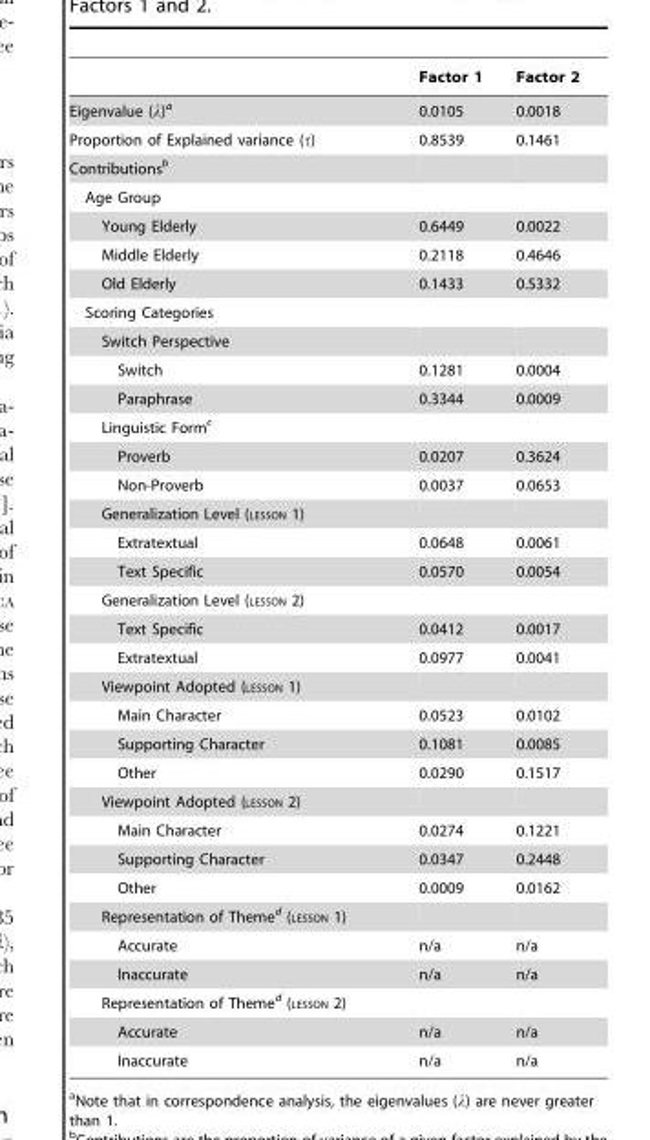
<table><thead><tr><td></td><td>Factor 1</td><td>Factor 2</td></tr></thead><tbody><tr><td>Eigenvalue (l)a</td><td>0.0105</td><td>0.0018</td></tr><tr><td>Proportion of Explained variance (t)</td><td>0.8539</td><td>0.1461</td></tr><tr><td colspan="3">Contributions<sup>b</sup></td></tr><tr><td colspan="3">Age Group</td></tr><tr><td>Young Elderly</td><td>0.6449</td><td>0.0022</td></tr><tr><td>Middle Elderly</td><td>0.2118</td><td>0.4646</td></tr><tr><td>Old Elderly</td><td>0.1433</td><td>0.5332</td></tr><tr><td colspan="3">Scoring Categories</td></tr><tr><td colspan="3">Switch Perspective</td></tr><tr><td>Switch</td><td>0.1281</td><td>0.0004</td></tr><tr><td>Paraphrase</td><td>0.3344</td><td>0.0009</td></tr><tr><td colspan="3">Linguistic Form<sup>c</sup></td></tr><tr><td>Proverb</td><td>0.0207</td><td>0.3624</td></tr><tr><td>Non-Proverb</td><td>0.0037</td><td>0.0653</td></tr><tr><td colspan="3">Generalization Level (LESSON 1)</td></tr><tr><td>Extratextual</td><td>0.0648</td><td>0.0061</td></tr><tr><td>Text Specific</td><td>0.0570</td><td>0.0054</td></tr><tr><td colspan="3">Generalization Level (LESSON 2)</td></tr><tr><td>Text Specific</td><td>0.0412</td><td>0.0017</td></tr><tr><td>Extratextual</td><td>0.0977</td><td>0.0041</td></tr><tr><td colspan="3">Viewpoint Adopted (LESSON 1)</td></tr><tr><td>Main Character</td><td>0.0523</td><td>0.0102</td></tr><tr><td>Supporting Character</td><td>0.1081</td><td>0.0085</td></tr><tr><td>Other</td><td>0.0290</td><td>0.1517</td></tr><tr><td colspan="3">Viewpoint Adopted (LESSON 2)</td></tr><tr><td>Main Character</td><td>0.0274</td><td>0.1221</td></tr><tr><td>Supporting Character</td><td>0.0347</td><td>0.2448</td></tr><tr><td>Other</td><td>0.0009</td><td>0.0162</td></tr><tr><td colspan="3">Representation of Theme<sup>d</sup> (LESSON 1)</td></tr><tr><td>Accurate</td><td>n/a</td><td>n/a</td></tr><tr><td>Inaccurate</td><td>n/a</td><td>n/a</td></tr><tr><td colspan="3">Representation of Theme<sup>d</sup> (LESSON 2)</td></tr><tr><td>Accurate</td><td>n/a</td><td>n/a</td></tr><tr><td>Inaccurate</td><td>n/a</td><td>n/a</td></tr></tbody></table>